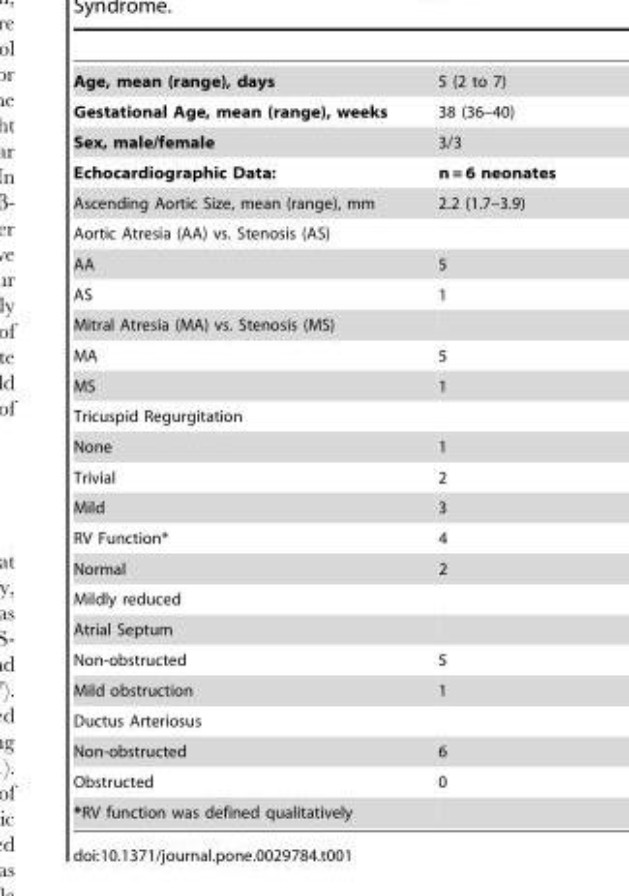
<table><tbody><tr><td>Age, mean (range), days</td><td>5 (2 to 7)</td></tr><tr><td>Gestational Age, mean (range), weeks</td><td>38 (36–40)</td></tr><tr><td>Sex, male/female</td><td>3/3</td></tr><tr><td>Echocardiographic Data:</td><td>n = 6 neonates</td></tr><tr><td>Ascending Aortic Size, mean (range), mm</td><td>2.2 (1.7–3.9)</td></tr><tr><td colspan="2">Aortic Atresia (AA) vs. Stenosis (AS)</td></tr><tr><td>AA</td><td>5</td></tr><tr><td>AS</td><td>1</td></tr><tr><td colspan="2">Mitral Atresia (MA) vs. Stenosis (MS)</td></tr><tr><td>MA</td><td>5</td></tr><tr><td>MS</td><td>1</td></tr><tr><td colspan="2">Tricuspid Regurgitation</td></tr><tr><td>None</td><td>1</td></tr><tr><td>Trivial</td><td>2</td></tr><tr><td>Mild</td><td>3</td></tr><tr><td>RV Function*</td><td>4</td></tr><tr><td>Normal</td><td>2</td></tr><tr><td colspan="2">Mildly reduced</td></tr><tr><td colspan="2">Atrial Septum</td></tr><tr><td>Non-obstructed</td><td>5</td></tr><tr><td>Mild obstruction</td><td>1</td></tr><tr><td colspan="2">Ductus Arteriosus</td></tr><tr><td>Non-obstructed</td><td>6</td></tr><tr><td>Obstructed</td><td>0</td></tr><tr><td>*RV function was defined qualitatively</td><td></td></tr></tbody></table>